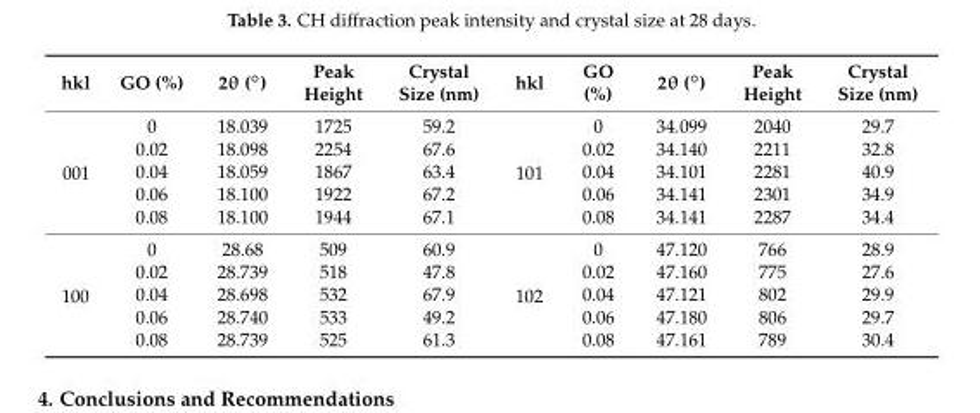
<table><thead><tr><td>hkl</td><td>GO (%)</td><td>2θ (◦)</td><td>Peak Height</td><td>Crystal Size (nm)</td><td>hkl</td><td>GO (%)</td><td>2θ (◦)</td><td>Peak Height</td><td>Crystal Size (nm)</td></tr></thead><tbody><tr><td rowspan="5">001</td><td>0</td><td>18.039</td><td>1725</td><td>59.2</td><td rowspan="5">101</td><td>0</td><td>34.099</td><td>2040</td><td>29.7</td></tr><tr><td>0.02</td><td>18.098</td><td>2254</td><td>67.6</td><td>0.02</td><td>34.140</td><td>2211</td><td>32.8</td></tr><tr><td>0.04</td><td>18.059</td><td>1867</td><td>63.4</td><td>0.04</td><td>34.101</td><td>2281</td><td>40.9</td></tr><tr><td>0.06</td><td>18.100</td><td>1922</td><td>67.2</td><td>0.06</td><td>34.141</td><td>2301</td><td>34.9</td></tr><tr><td>0.08</td><td>18.100</td><td>1944</td><td>67.1</td><td>0.08</td><td>34.141</td><td>2287</td><td>34.4</td></tr><tr><td rowspan="5">100</td><td>0</td><td>28.68</td><td>509</td><td>60.9</td><td rowspan="5">102</td><td>0</td><td>47.120</td><td>766</td><td>28.9</td></tr><tr><td>0.02</td><td>28.739</td><td>518</td><td>47.8</td><td>0.02</td><td>47.160</td><td>775</td><td>27.6</td></tr><tr><td>0.04</td><td>28.698</td><td>532</td><td>67.9</td><td>0.04</td><td>47.121</td><td>802</td><td>29.9</td></tr><tr><td>0.06</td><td>28.740</td><td>533</td><td>49.2</td><td>0.06</td><td>47.180</td><td>806</td><td>29.7</td></tr><tr><td>0.08</td><td>28.739</td><td>525</td><td>61.3</td><td>0.08</td><td>47.161</td><td>789</td><td>30.4</td></tr></tbody></table>